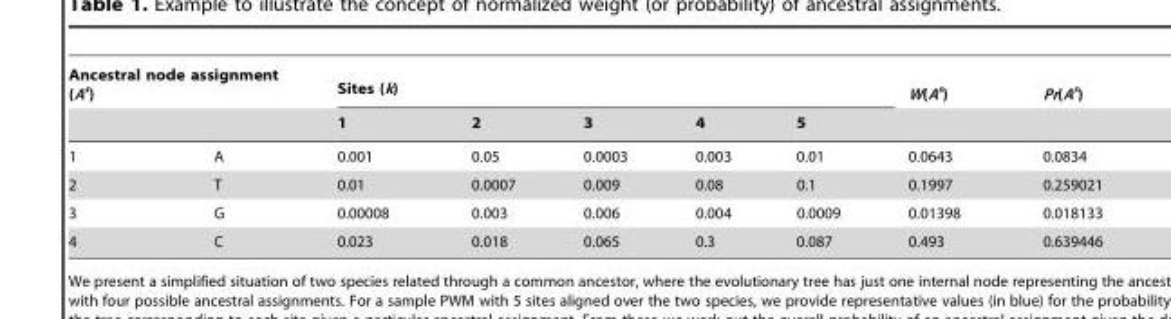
<table><thead><tr><td colspan="2">Ancestral node assignment (A<sup>s</sup>)</td><td colspan="5">Sites (k)</td><td rowspan="2">W(A<sup>s</sup>)</td><td rowspan="2">Pr(A<sup>s</sup>)</td></tr><tr><td></td><td></td><td>1</td><td>2</td><td>3</td><td>4</td><td>5</td></tr></thead><tbody><tr><td>1</td><td>A</td><td>0.001</td><td>0.05</td><td>0.0003</td><td>0.003</td><td>0.01</td><td>0.0643</td><td>0.0834</td></tr><tr><td>2</td><td>T</td><td>0.01</td><td>0.0007</td><td>0.009</td><td>0.08</td><td>0.1</td><td>0.1997</td><td>0.259021</td></tr><tr><td>3</td><td>G</td><td>0.00008</td><td>0.003</td><td>0.006</td><td>0.004</td><td>0.0009</td><td>0.01398</td><td>0.018133</td></tr><tr><td>4</td><td>C</td><td>0.023</td><td>0.018</td><td>0.065</td><td>0.3</td><td>0.087</td><td>0.493</td><td>0.639446</td></tr></tbody></table>